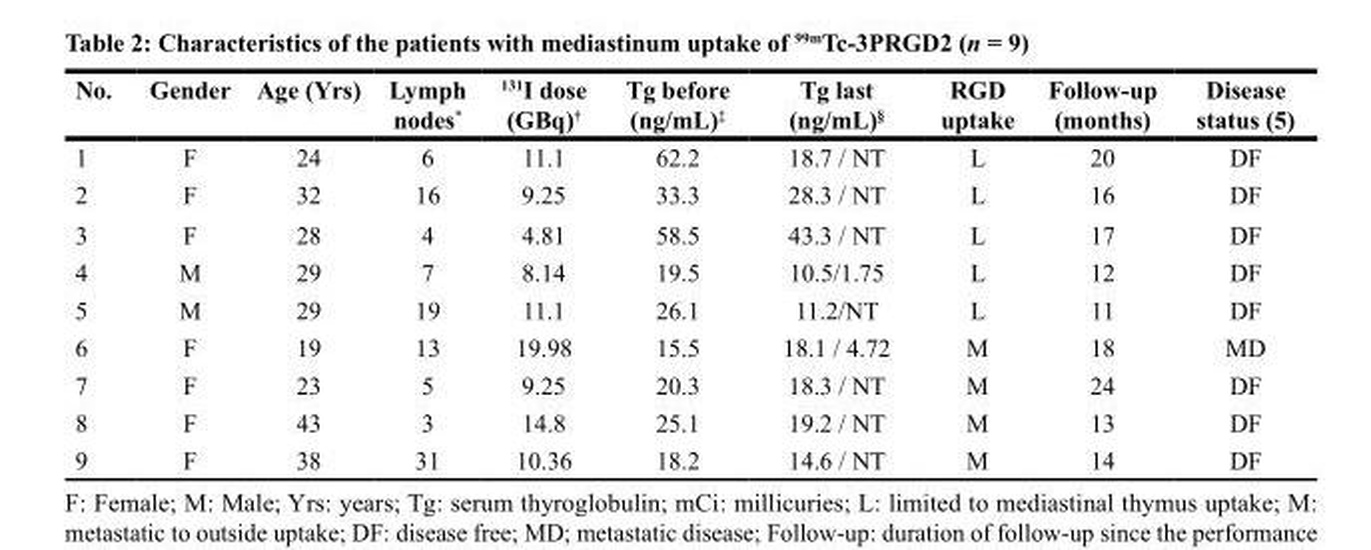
<table><thead><tr><td>No.</td><td>Gender</td><td>Age (Yrs)</td><td>Lymph nodes*</td><td><sup>131</sup>I dose (GBq)<sup>†</sup></td><td>Tg before (ng/mL)<sup>‡</sup></td><td>Tg last (ng/mL)<sup>§</sup></td><td>RGD uptake</td><td>Follow-up (months)</td><td>Disease status (5)</td></tr></thead><tbody><tr><td>1</td><td>F</td><td>24</td><td>6</td><td>11.1</td><td>62.2</td><td>18.7 / NT</td><td>L</td><td>20</td><td>DF</td></tr><tr><td>2</td><td>F</td><td>32</td><td>16</td><td>9.25</td><td>33.3</td><td>28.3 / NT</td><td>L</td><td>16</td><td>DF</td></tr><tr><td>3</td><td>F</td><td>28</td><td>4</td><td>4.81</td><td>58.5</td><td>43.3 / NT</td><td>L</td><td>17</td><td>DF</td></tr><tr><td>4</td><td>M</td><td>29</td><td>7</td><td>8.14</td><td>19.5</td><td>10.5/1.75</td><td>L</td><td>12</td><td>DF</td></tr><tr><td>5</td><td>M</td><td>29</td><td>19</td><td>11.1</td><td>26.1</td><td>11.2/NT</td><td>L</td><td>11</td><td>DF</td></tr><tr><td>6</td><td>F</td><td>19</td><td>13</td><td>19.98</td><td>15.5</td><td>18.1 / 4.72</td><td>M</td><td>18</td><td>MD</td></tr><tr><td>7</td><td>F</td><td>23</td><td>5</td><td>9.25</td><td>20.3</td><td>18.3 / NT</td><td>M</td><td>24</td><td>DF</td></tr><tr><td>8</td><td>F</td><td>43</td><td>3</td><td>14.8</td><td>25.1</td><td>19.2 / NT</td><td>M</td><td>13</td><td>DF</td></tr><tr><td>9</td><td>F</td><td>38</td><td>31</td><td>10.36</td><td>18.2</td><td>14.6 / NT</td><td>M</td><td>14</td><td>DF</td></tr></tbody></table>